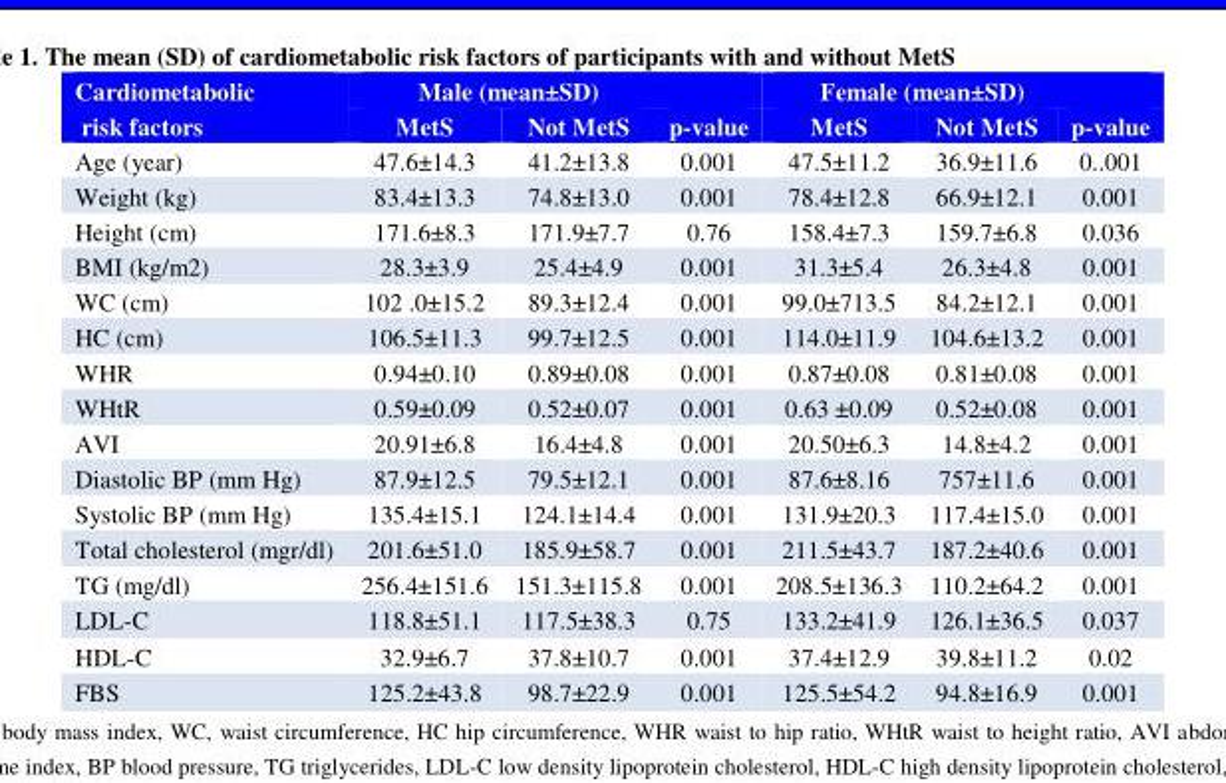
<table><thead><tr><td rowspan="2">Cardiometabolic risk factors</td><td colspan="3">Male (mean±SD)</td><td colspan="3">Female (mean±SD)</td></tr><tr><td>MetS</td><td>Not MetS</td><td>p-value</td><td>MetS</td><td>Not MetS</td><td>p-value</td></tr></thead><tbody><tr><td>Age (year)</td><td>47.6±14.3</td><td>41.2±13.8</td><td>0.001</td><td>47.5±11.2</td><td>36.9±11.6</td><td>0..001</td></tr><tr><td>Weight (kg)</td><td>83.4±13.3</td><td>74.8±13.0</td><td>0.001</td><td>78.4±12.8</td><td>66.9±12.1</td><td>0.001</td></tr><tr><td>Height (cm)</td><td>171.6±8.3</td><td>171.9±7.7</td><td>0.76</td><td>158.4±7.3</td><td>159.7±6.8</td><td>0.036</td></tr><tr><td>BMI (kg/m2)</td><td>28.3±3.9</td><td>25.4±4.9</td><td>0.001</td><td>31.3±5.4</td><td>26.3±4.8</td><td>0.001</td></tr><tr><td>WC (cm)</td><td>102 .0±15.2</td><td>89.3±12.4</td><td>0.001</td><td>99.0±713.5</td><td>84.2±12.1</td><td>0.001</td></tr><tr><td>HC (cm)</td><td>106.5±11.3</td><td>99.7±12.5</td><td>0.001</td><td>114.0±11.9</td><td>104.6±13.2</td><td>0.001</td></tr><tr><td>WHR</td><td>0.94±0.10</td><td>0.89±0.08</td><td>0.001</td><td>0.87±0.08</td><td>0.81±0.08</td><td>0.001</td></tr><tr><td>WHtR</td><td>0.59±0.09</td><td>0.52±0.07</td><td>0.001</td><td>0.63 ±0.09</td><td>0.52±0.08</td><td>0.001</td></tr><tr><td>AVI</td><td>20.91±6.8</td><td>16.4±4.8</td><td>0.001</td><td>20.50±6.3</td><td>14.8±4.2</td><td>0.001</td></tr><tr><td>Diastolic BP (mm Hg)</td><td>87.9±12.5</td><td>79.5±12.1</td><td>0.001</td><td>87.6±8.16</td><td>757±11.6</td><td>0.001</td></tr><tr><td>Systolic BP (mm Hg)</td><td>135.4±15.1</td><td>124.1±14.4</td><td>0.001</td><td>131.9±20.3</td><td>117.4±15.0</td><td>0.001</td></tr><tr><td>Total cholesterol (mgr/dl)</td><td>201.6±51.0</td><td>185.9±58.7</td><td>0.001</td><td>211.5±43.7</td><td>187.2±40.6</td><td>0.001</td></tr><tr><td>TG (mg/dl)</td><td>256.4±151.6</td><td>151.3±115.8</td><td>0.001</td><td>208.5±136.3</td><td>110.2±64.2</td><td>0.001</td></tr><tr><td>LDL-C</td><td>118.8±51.1</td><td>117.5±38.3</td><td>0.75</td><td>133.2±41.9</td><td>126.1±36.5</td><td>0.037</td></tr><tr><td>HDL-C</td><td>32.9±6.7</td><td>37.8±10.7</td><td>0.001</td><td>37.4±12.9</td><td>39.8±11.2</td><td>0.02</td></tr><tr><td>FBS</td><td>125.2±43.8</td><td>98.7±22.9</td><td>0.001</td><td>125.5±54.2</td><td>94.8±16.9</td><td>0.001</td></tr></tbody></table>